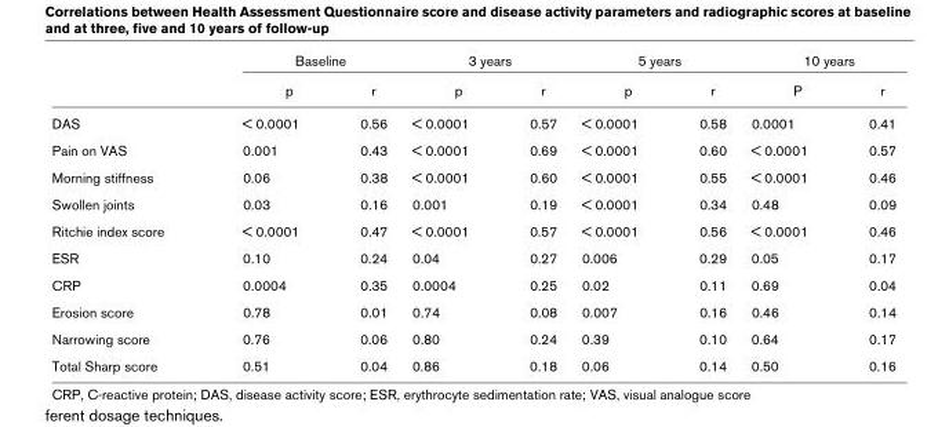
<table><thead><tr><td rowspan="2"></td><td colspan="2">Baseline</td><td colspan="2">3 years</td><td colspan="2">5 years</td><td colspan="2">10 years</td></tr><tr><td>p</td><td>r</td><td>p</td><td>r</td><td>p</td><td>r</td><td>P</td><td>r</td></tr></thead><tbody><tr><td>DAS</td><td>&lt; 0.0001</td><td>0.56</td><td>&lt; 0.0001</td><td>0.57</td><td>&lt; 0.0001</td><td>0.58</td><td>0.0001</td><td>0.41</td></tr><tr><td>Pain on VAS</td><td>0.001</td><td>0.43</td><td>&lt; 0.0001</td><td>0.69</td><td>&lt; 0.0001</td><td>0.60</td><td>&lt; 0.0001</td><td>0.57</td></tr><tr><td>Morning stiffness</td><td>0.06</td><td>0.38</td><td>&lt; 0.0001</td><td>0.60</td><td>&lt; 0.0001</td><td>0.55</td><td>&lt; 0.0001</td><td>0.46</td></tr><tr><td>Swollen joints</td><td>0.03</td><td>0.16</td><td>0.001</td><td>0.19</td><td>&lt; 0.0001</td><td>0.34</td><td>0.48</td><td>0.09</td></tr><tr><td>Ritchie index score</td><td>&lt; 0.0001</td><td>0.47</td><td>&lt; 0.0001</td><td>0.57</td><td>&lt; 0.0001</td><td>0.56</td><td>&lt; 0.0001</td><td>0.46</td></tr><tr><td>ESR</td><td>0.10</td><td>0.24</td><td>0.04</td><td>0.27</td><td>0.006</td><td>0.29</td><td>0.05</td><td>0.17</td></tr><tr><td>CRP</td><td>0.0004</td><td>0.35</td><td>0.0004</td><td>0.25</td><td>0.02</td><td>0.11</td><td>0.69</td><td>0.04</td></tr><tr><td>Erosion score</td><td>0.78</td><td>0.01</td><td>0.74</td><td>0.08</td><td>0.007</td><td>0.16</td><td>0.46</td><td>0.14</td></tr><tr><td>Narrowing score</td><td>0.76</td><td>0.06</td><td>0.80</td><td>0.24</td><td>0.39</td><td>0.10</td><td>0.64</td><td>0.17</td></tr><tr><td>Total Sharp score</td><td>0.51</td><td>0.04</td><td>0.86</td><td>0.18</td><td>0.06</td><td>0.14</td><td>0.50</td><td>0.16</td></tr></tbody></table>